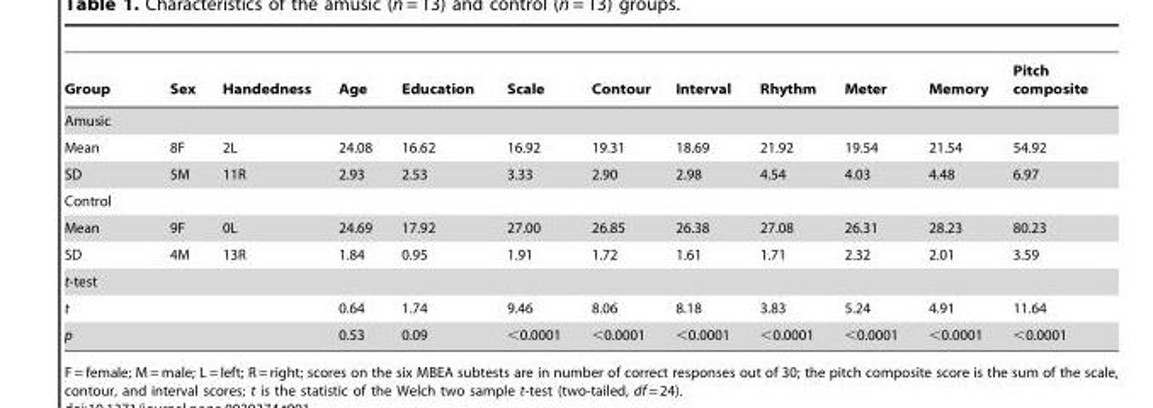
<table><thead><tr><td>Group</td><td>Sex</td><td>Handedness</td><td>Age</td><td>Education</td><td>Scale</td><td>Contour</td><td>Interval</td><td>Rhythm</td><td>Meter</td><td>Memory</td><td>Pitch composite</td></tr></thead><tbody><tr><td colspan="12">Amusic</td></tr><tr><td>Mean</td><td>8F</td><td>2L</td><td>24.08</td><td>16.62</td><td>16.92</td><td>19.31</td><td>18.69</td><td>21.92</td><td>19.54</td><td>21.54</td><td>54.92</td></tr><tr><td>SD</td><td>5M</td><td>11R</td><td>2.93</td><td>2.53</td><td>3.33</td><td>2.90</td><td>2.98</td><td>4.54</td><td>4.03</td><td>4.48</td><td>6.97</td></tr><tr><td colspan="12">Control</td></tr><tr><td>Mean</td><td>9F</td><td>0L</td><td>24.69</td><td>17.92</td><td>27.00</td><td>26.85</td><td>26.38</td><td>27.08</td><td>26.31</td><td>28.23</td><td>80.23</td></tr><tr><td>SD</td><td>4M</td><td>13R</td><td>1.84</td><td>0.95</td><td>1.91</td><td>1.72</td><td>1.61</td><td>1.71</td><td>2.32</td><td>2.01</td><td>3.59</td></tr><tr><td colspan="12">t-test</td></tr><tr><td>t</td><td></td><td></td><td>0.64</td><td>1.74</td><td>9.46</td><td>8.06</td><td>8.18</td><td>3.83</td><td>5.24</td><td>4.91</td><td>11.64</td></tr><tr><td>p</td><td></td><td></td><td>0.53</td><td>0.09</td><td>&lt;0.0001</td><td>&lt;0.0001</td><td>&lt;0.0001</td><td>&lt;0.0001</td><td>&lt;0.0001</td><td>&lt;0.0001</td><td>&lt;0.0001</td></tr></tbody></table>